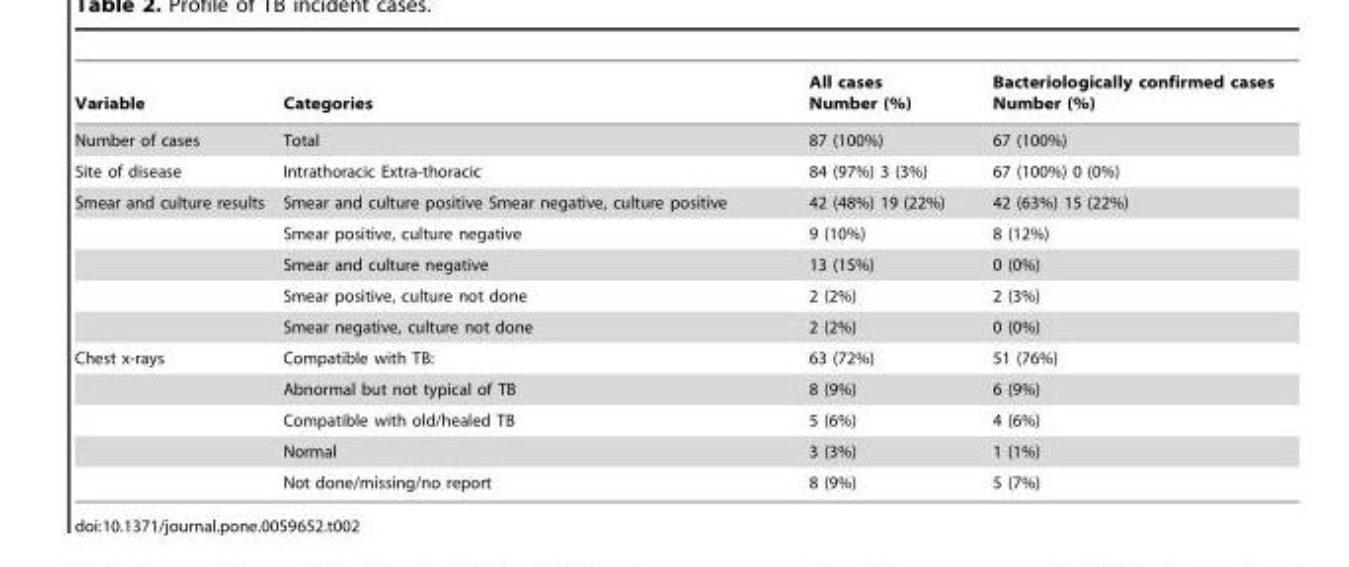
<table><thead><tr><td>Variable</td><td>Categories</td><td>All cases Number (%)</td><td>Bacteriologically confirmed cases Number (%)</td></tr></thead><tbody><tr><td>Number of cases</td><td>Total</td><td>87 (100%)</td><td>67 (100%)</td></tr><tr><td>Site of disease</td><td>Intrathoracic Extra-thoracic</td><td>84 (97%) 3 (3%)</td><td>67 (100%) 0 (0%)</td></tr><tr><td rowspan="5">Smear and culture results</td><td>Smear and culture positive Smear negative, culture positive</td><td>42 (48%) 19 (22%)</td><td>42 (63%) 15 (22%)</td></tr><tr><td>Smear positive, culture negative</td><td>9 (10%)</td><td>8 (12%)</td></tr><tr><td>Smear and culture negative</td><td>13 (15%)</td><td>0 (0%)</td></tr><tr><td>Smear positive, culture not done</td><td>2 (2%)</td><td>2 (3%)</td></tr><tr><td>Smear negative, culture not done</td><td>2 (2%)</td><td>0 (0%)</td></tr><tr><td rowspan="5">Chest x-rays</td><td>Compatible with TB:</td><td>63 (72%)</td><td>51 (76%)</td></tr><tr><td>Abnormal but not typical of TB</td><td>8 (9%)</td><td>6 (9%)</td></tr><tr><td>Compatible with old/healed TB</td><td>5 (6%)</td><td>4 (6%)</td></tr><tr><td>Normal</td><td>3 (3%)</td><td>1 (1%)</td></tr><tr><td>Not done/missing/no report</td><td>8 (9%)</td><td>5 (7%)</td></tr></tbody></table>